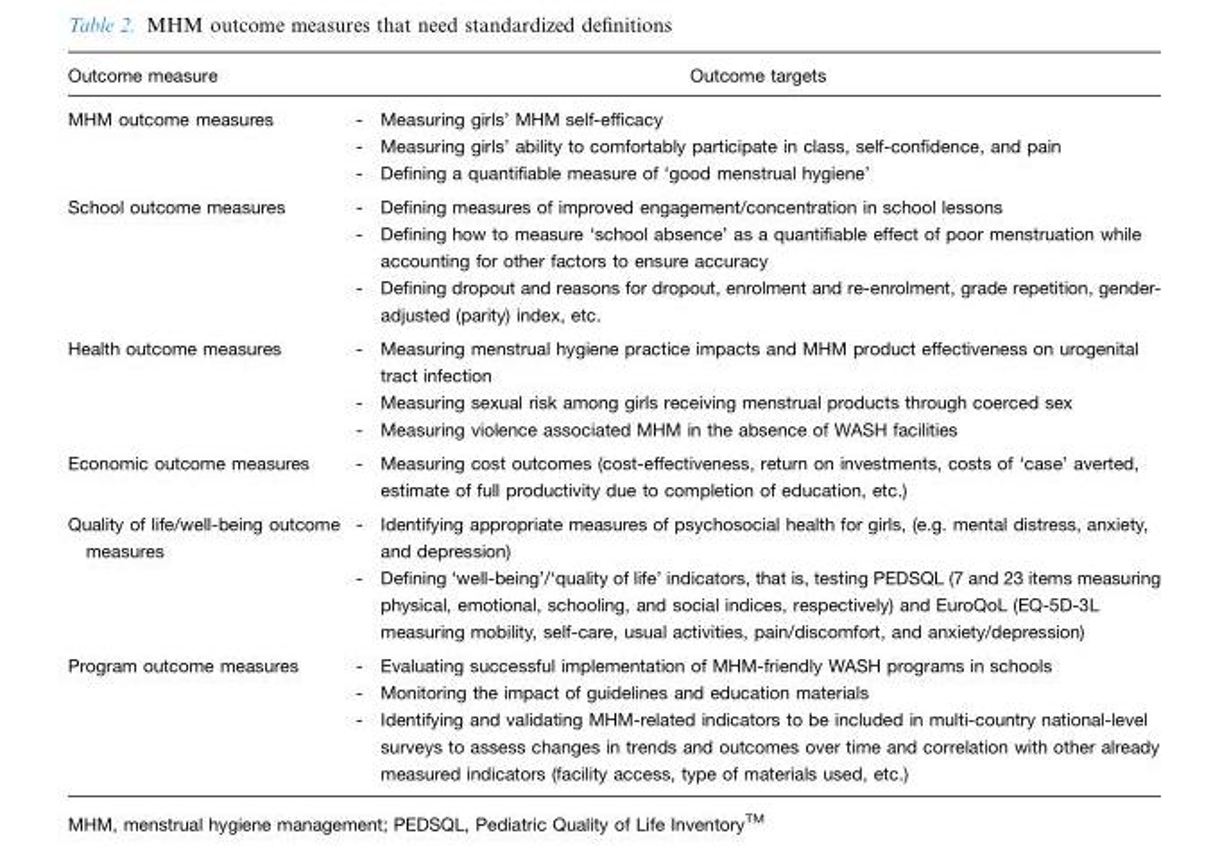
<table><thead><tr><td>Outcome measure</td><td>Outcome targets</td></tr></thead><tbody><tr><td rowspan="3">MHM outcome measures</td><td>- Measuring girls’ MHM self-efficacy</td></tr><tr><td>- Measuring girls’ ability to comfortably participate in class, self-confidence, and pain</td></tr><tr><td>- Defining a quantifiable measure of ‘good menstrual hygiene’</td></tr><tr><td rowspan="3">School outcome measures</td><td>- Defining measures of improved engagement/concentration in school lessons</td></tr><tr><td>- Defining how to measure ‘school absence’ as a quantifiable effect of poor menstruation while accounting for other factors to ensure accuracy</td></tr><tr><td>- Defining dropout and reasons for dropout, enrolment and re-enrolment, grade repetition, gender- adjusted (parity) index, etc.</td></tr><tr><td rowspan="2">Health outcome measures</td><td>- Measuring menstrual hygiene practice impacts and MHM product effectiveness on urogenital tract infection - Measuring sexual risk among girls receiving menstrual products through coerced sex</td></tr><tr><td>- Measuring violence associated MHM in the absence of WASH facilities</td></tr><tr><td>Economic outcome measures</td><td>- Measuring cost outcomes (cost-effectiveness, return on investments, costs of ‘case’ averted, estimate of full productivity due to completion of education, etc.)</td></tr><tr><td rowspan="2">Quality of life/well-being outcome measures</td><td>- Identifying appropriate measures of psychosocial health for girls, (e.g. mental distress, anxiety, and depression)</td></tr><tr><td>- Defining ‘well-being’/‘quality of life’ indicators, that is, testing PEDSQL (7 and 23 items measuring physical, emotional, schooling, and social indices, respectively) and EuroQoL (EQ-5D-3L measuring mobility, self-care, usual activities, pain/discomfort, and anxiety/depression)</td></tr><tr><td>Program outcome measures</td><td>- Evaluating successful implementation of MHM-friendly WASH programs in schools - Monitoring the impact of guidelines and education materials - Identifying and validating MHM-related indicators to be included in multi-country national-level surveys to assess changes in trends and outcomes over time and correlation with other already measured indicators (facility access, type of materials used, etc.)</td></tr></tbody></table>